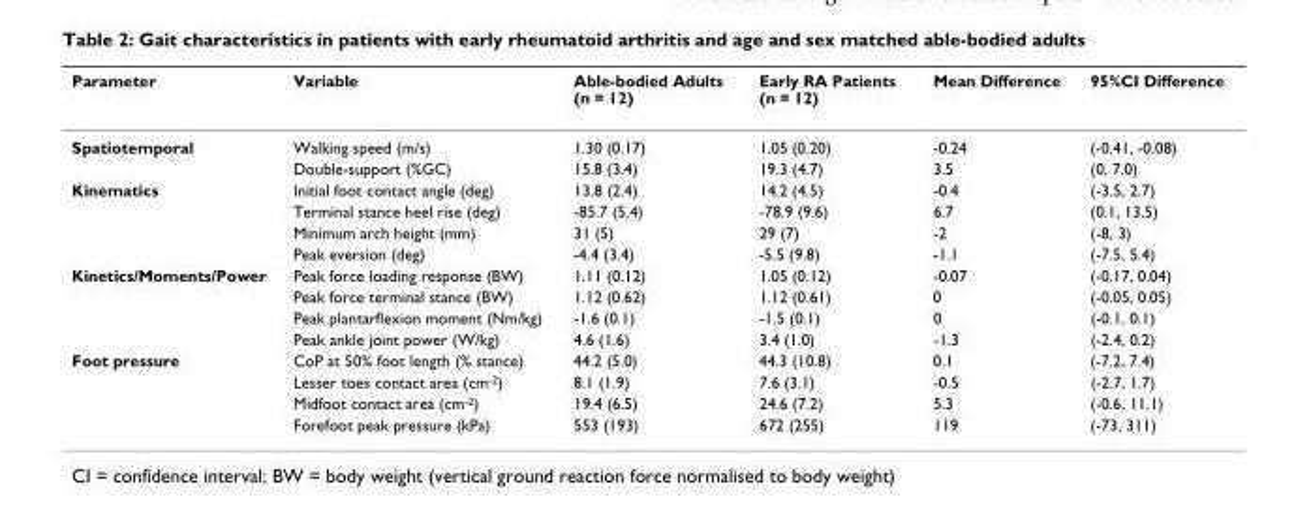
<table><thead><tr><td>Parameter</td><td>Variable</td><td>Able-bodied Adults (n = 12)</td><td>Early RA Patients (n = 12)</td><td>Mean Difference</td><td>95%CI Difference</td></tr></thead><tbody><tr><td rowspan="2">Spatiotemporal</td><td>Walking speed (m/s)</td><td>1.30 (0.17)</td><td>1.05 (0.20)</td><td>-0.24</td><td>(-0.41, -0.08)</td></tr><tr><td>Double-support (%GC)</td><td>15.8 (3.4)</td><td>19.3 (4.7)</td><td>3.5</td><td>(0, 7.0)</td></tr><tr><td rowspan="4">Kinematics</td><td>Initial foot contact angle (deg)</td><td>13.8 (2.4)</td><td>14.2 (4.5)</td><td>-0.4</td><td>(-3.5, 2.7)</td></tr><tr><td>Terminal stance heel rise (deg)</td><td>-85.7 (5.4)</td><td>-78.9 (9.6)</td><td>6.7</td><td>(0.1, 13.5)</td></tr><tr><td>Minimum arch height (mm)</td><td>31 (5)</td><td>29 (7)</td><td>-2</td><td>(-8, 3)</td></tr><tr><td>Peak eversion (deg)</td><td>-4.4 (3.4)</td><td>-5.5 (9.8)</td><td>-1.1</td><td>(-7.5, 5.4)</td></tr><tr><td rowspan="4">Kinetics/Moments/Power</td><td>Peak force loading response (BW)</td><td>1.11 (0.12)</td><td>1.05 (0.12)</td><td>-0.07</td><td>(-0.17, 0.04)</td></tr><tr><td>Peak force terminal stance (BW)</td><td>1.12 (0.62)</td><td>1.12 (0.61)</td><td>0</td><td>(-0.05, 0.05)</td></tr><tr><td>Peak plantarflexion moment (Nm/kg)</td><td>-1.6 (0.1)</td><td>-1.5 (0.1)</td><td>0</td><td>(-0.1, 0.1)</td></tr><tr><td>Peak ankle joint power (W/kg)</td><td>4.6 (1.6)</td><td>3.4 (1.0)</td><td>-1.3</td><td>(-2.4, 0.2)</td></tr><tr><td rowspan="4">Foot pressure</td><td>CoP at 50% foot length (% stance)</td><td>44.2 (5.0)</td><td>44.3 (10.8)</td><td>0.1</td><td>(-7.2, 7.4)</td></tr><tr><td>Lesser toes contact area (cm-2)</td><td>8.1 (1.9)</td><td>7.6 (3.1)</td><td>-0.5</td><td>(-2.7, 1.7)</td></tr><tr><td>Midfoot contact area (cm-2)</td><td>19.4 (6.5)</td><td>24.6 (7.2)</td><td>5.3</td><td>(-0.6, 11.1)</td></tr><tr><td>Forefoot peak pressure (kPa)</td><td>553 (193)</td><td>672 (255)</td><td>119</td><td>(-73, 311)</td></tr></tbody></table>